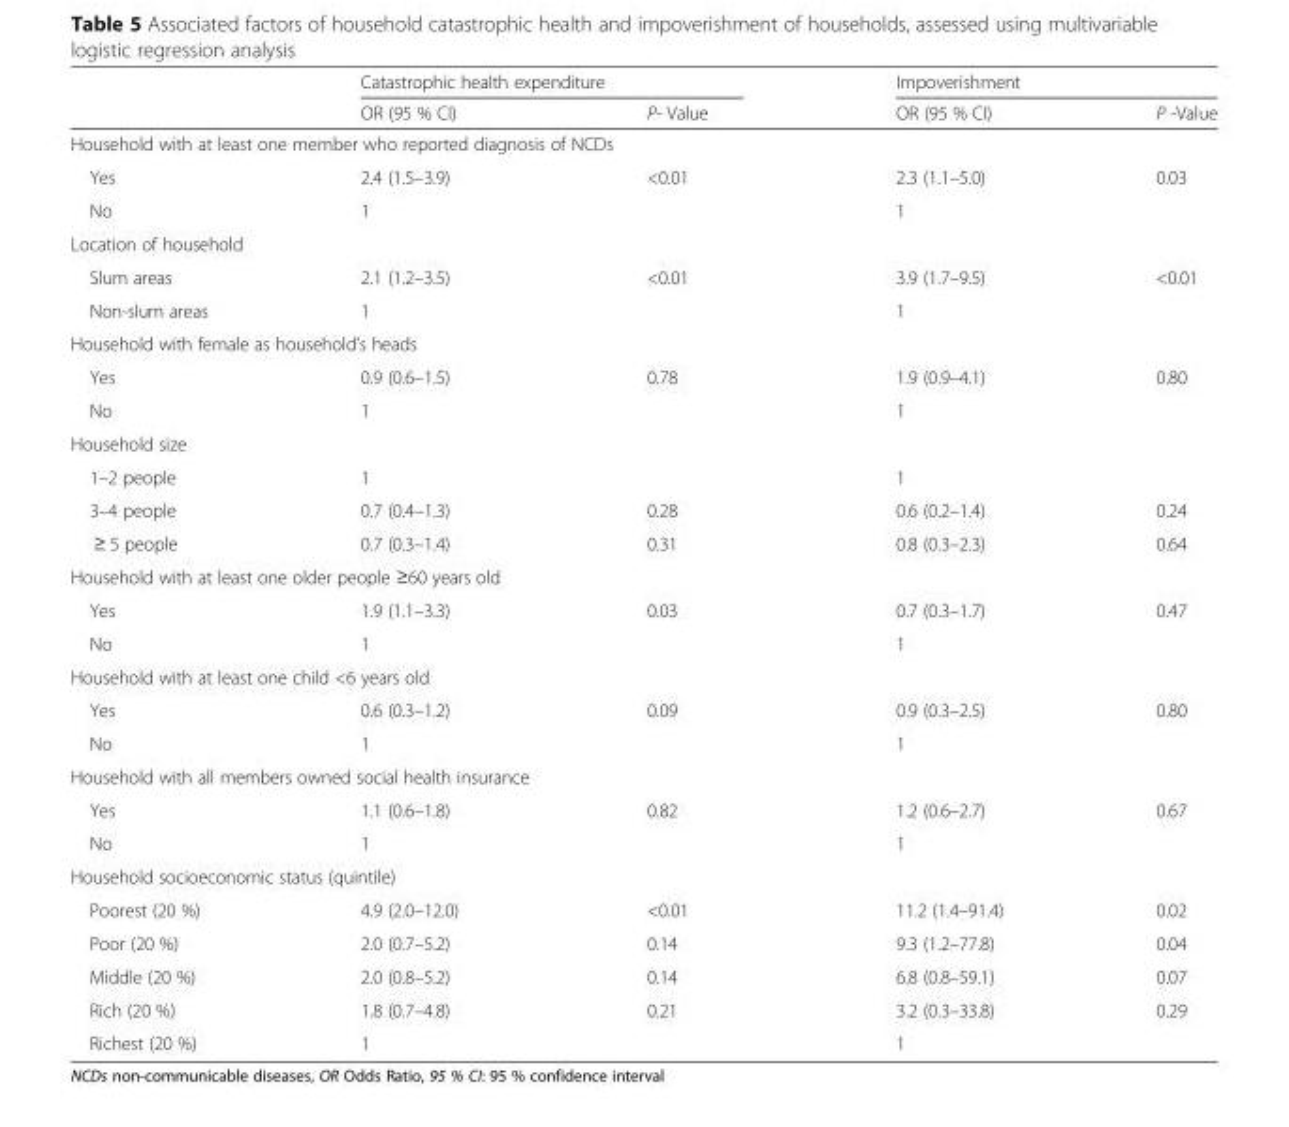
<table><thead><tr><td rowspan="2"></td><td colspan="2">Catastrophic health expenditure</td><td colspan="2">Impoverishment</td></tr><tr><td>OR (95 % CI)</td><td>P- Value</td><td>OR (95 % CI)</td><td>P -Value</td></tr></thead><tbody><tr><td colspan="5">Household with at least one member who reported diagnosis of NCDs</td></tr><tr><td>Yes</td><td>2.4 (1.5–3.9)</td><td>&lt;0.01</td><td>2.3 (1.1–5.0)</td><td>0.03</td></tr><tr><td>No</td><td>1</td><td></td><td>1</td><td></td></tr><tr><td colspan="5">Location of household</td></tr><tr><td>Slum areas</td><td>2.1 (1.2–3.5)</td><td>&lt;0.01</td><td>3.9 (1.7–9.5)</td><td>&lt;0.01</td></tr><tr><td>Non-slum areas</td><td>1</td><td></td><td>1</td><td></td></tr><tr><td colspan="5">Household with female as household’s heads</td></tr><tr><td>Yes</td><td>0.9 (0.6–1.5)</td><td>0.78</td><td>1.9 (0.9–4.1)</td><td>0.80</td></tr><tr><td>No</td><td>1</td><td></td><td>1</td><td></td></tr><tr><td colspan="5">Household size</td></tr><tr><td>1–2 people</td><td>1</td><td></td><td>1</td><td></td></tr><tr><td>3–4 people</td><td>0.7 (0.4–1.3)</td><td>0.28</td><td>0.6 (0.2–1.4)</td><td>0.24</td></tr><tr><td>≥ 5 people</td><td>0.7 (0.3–1.4)</td><td>0.31</td><td>0.8 (0.3–2.3)</td><td>0.64</td></tr><tr><td colspan="5">Household with at least one older people ≥60 years old</td></tr><tr><td>Yes</td><td>1.9 (1.1–3.3)</td><td>0.03</td><td>0.7 (0.3–1.7)</td><td>0.47</td></tr><tr><td>No</td><td>1</td><td></td><td>1</td><td></td></tr><tr><td colspan="5">Household with at least one child &lt;6 years old</td></tr><tr><td>Yes</td><td>0.6 (0.3–1.2)</td><td>0.09</td><td>0.9 (0.3–2.5)</td><td>0.80</td></tr><tr><td>No</td><td>1</td><td></td><td>1</td><td></td></tr><tr><td colspan="5">Household with all members owned social health insurance</td></tr><tr><td>Yes</td><td>1.1 (0.6–1.8)</td><td>0.82</td><td>1.2 (0.6–2.7)</td><td>0.67</td></tr><tr><td>No</td><td>1</td><td></td><td>1</td><td></td></tr><tr><td colspan="5">Household socioeconomic status (quintile)</td></tr><tr><td>Poorest (20 %)</td><td>4.9 (2.0–12.0)</td><td>&lt;0.01</td><td>11.2 (1.4–91.4)</td><td>0.02</td></tr><tr><td>Poor (20 %)</td><td>2.0 (0.7–5.2)</td><td>0.14</td><td>9.3 (1.2–77.8)</td><td>0.04</td></tr><tr><td>Middle (20 %)</td><td>2.0 (0.8–5.2)</td><td>0.14</td><td>6.8 (0.8–59.1)</td><td>0.07</td></tr><tr><td>Rich (20 %)</td><td>1.8 (0.7–4.8)</td><td>0.21</td><td>3.2 (0.3–33.8)</td><td>0.29</td></tr><tr><td>Richest (20 %)</td><td>1</td><td></td><td>1</td><td></td></tr></tbody></table>